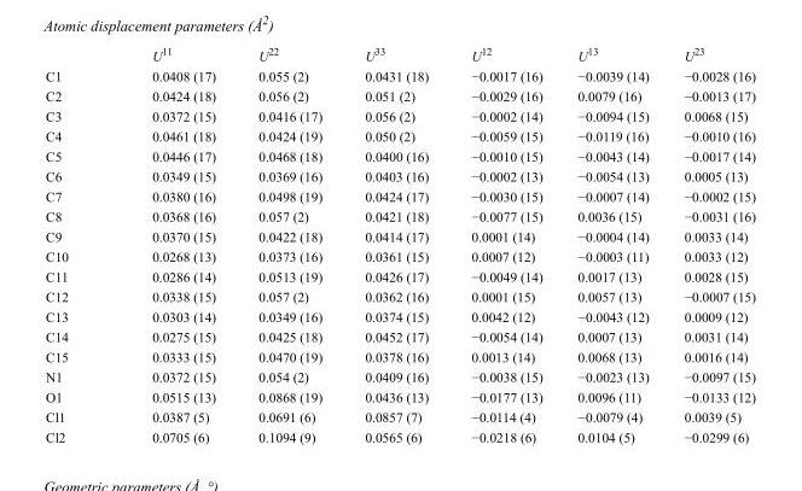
<table><thead><tr><td></td><td>U<sup>11</sup></td><td>U<sup>22</sup></td><td>U<sup>33</sup></td><td>U<sup>12</sup></td><td>U<sup>13</sup></td><td>U<sup>23</sup></td></tr></thead><tbody><tr><td>C1</td><td>0.0408 (17)</td><td>0.055 (2)</td><td>0.0431 (18)</td><td>−0.0017 (16)</td><td>−0.0039 (14)</td><td>−0.0028 (16)</td></tr><tr><td>C2</td><td>0.0424 (18)</td><td>0.056 (2)</td><td>0.051 (2)</td><td>−0.0029 (16)</td><td>0.0079 (16)</td><td>−0.0013 (17)</td></tr><tr><td>C3</td><td>0.0372 (15)</td><td>0.0416 (17)</td><td>0.056 (2)</td><td>−0.0002 (14)</td><td>−0.0094 (15)</td><td>0.0068 (15)</td></tr><tr><td>C4</td><td>0.0461 (18)</td><td>0.0424 (19)</td><td>0.050 (2)</td><td>−0.0059 (15)</td><td>−0.0119 (16)</td><td>−0.0010 (16)</td></tr><tr><td>C5</td><td>0.0446 (17)</td><td>0.0468 (18)</td><td>0.0400 (16)</td><td>−0.0010 (15)</td><td>−0.0043 (14)</td><td>−0.0017 (14)</td></tr><tr><td>C6</td><td>0.0349 (15)</td><td>0.0369 (16)</td><td>0.0403 (16)</td><td>−0.0002 (13)</td><td>−0.0054 (13)</td><td>0.0005 (13)</td></tr><tr><td>C7</td><td>0.0380 (16)</td><td>0.0498 (19)</td><td>0.0424 (17)</td><td>−0.0030 (15)</td><td>−0.0007 (14)</td><td>−0.0002 (15)</td></tr><tr><td>C8</td><td>0.0368 (16)</td><td>0.057 (2)</td><td>0.0421 (18)</td><td>−0.0077 (15)</td><td>0.0036 (15)</td><td>−0.0031 (16)</td></tr><tr><td>C9</td><td>0.0370 (15)</td><td>0.0422 (18)</td><td>0.0414 (17)</td><td>0.0001 (14)</td><td>−0.0004 (14)</td><td>0.0033 (14)</td></tr><tr><td>C10</td><td>0.0268 (13)</td><td>0.0373 (16)</td><td>0.0361 (15)</td><td>0.0007 (12)</td><td>−0.0003 (11)</td><td>0.0033 (12)</td></tr><tr><td>C11</td><td>0.0286 (14)</td><td>0.0513 (19)</td><td>0.0426 (17)</td><td>−0.0049 (14)</td><td>0.0017 (13)</td><td>0.0028 (15)</td></tr><tr><td>C12</td><td>0.0338 (15)</td><td>0.057 (2)</td><td>0.0362 (16)</td><td>0.0001 (15)</td><td>0.0057 (13)</td><td>−0.0007 (15)</td></tr><tr><td>C13</td><td>0.0303 (14)</td><td>0.0349 (16)</td><td>0.0374 (15)</td><td>0.0042 (12)</td><td>−0.0043 (12)</td><td>0.0009 (12)</td></tr><tr><td>C14</td><td>0.0275 (15)</td><td>0.0425 (18)</td><td>0.0452 (17)</td><td>−0.0054 (14)</td><td>0.0007 (13)</td><td>0.0031 (14)</td></tr><tr><td>C15</td><td>0.0333 (15)</td><td>0.0470 (19)</td><td>0.0378 (16)</td><td>0.0013 (14)</td><td>0.0068 (13)</td><td>0.0016 (14)</td></tr><tr><td>N1</td><td>0.0372 (15)</td><td>0.054 (2)</td><td>0.0409 (16)</td><td>−0.0038 (15)</td><td>−0.0023 (13)</td><td>−0.0097 (15)</td></tr><tr><td>O1</td><td>0.0515 (13)</td><td>0.0868 (19)</td><td>0.0436 (13)</td><td>−0.0177 (13)</td><td>0.0096 (11)</td><td>−0.0133 (12)</td></tr><tr><td>Cl1</td><td>0.0387 (5)</td><td>0.0691 (6)</td><td>0.0857 (7)</td><td>−0.0114 (4)</td><td>−0.0079 (4)</td><td>0.0039 (5)</td></tr><tr><td>Cl2</td><td>0.0705 (6)</td><td>0.1094 (9)</td><td>0.0565 (6)</td><td>−0.0218 (6)</td><td>0.0104 (5)</td><td>−0.0299 (6)</td></tr></tbody></table>